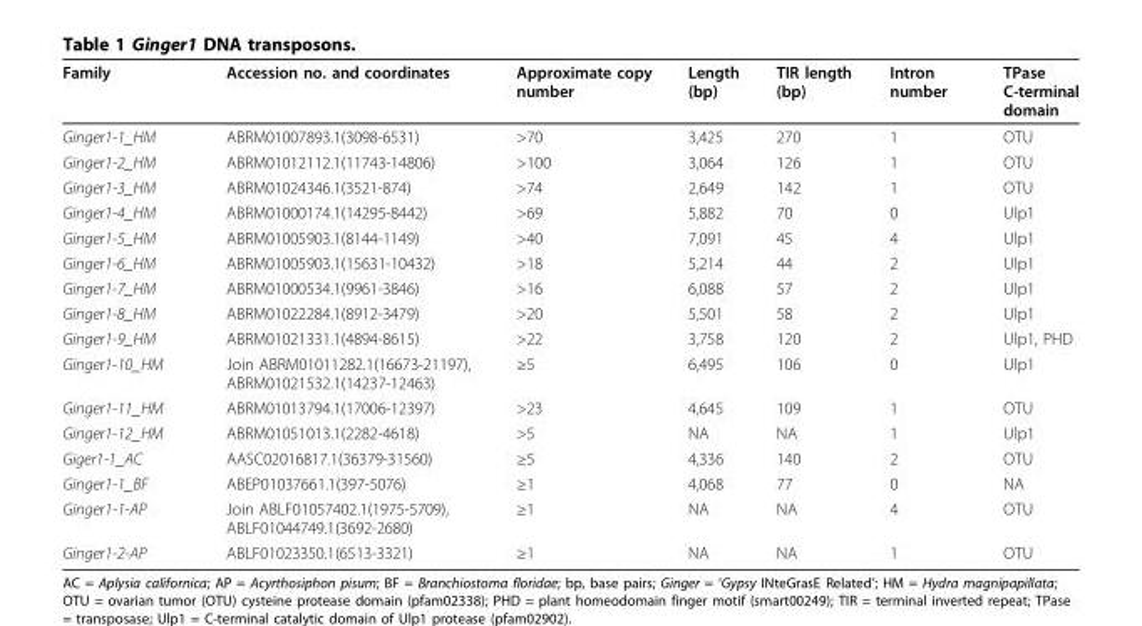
<table><thead><tr><td>Family</td><td>Accession no. and coordinates</td><td>Approximate copy number</td><td>Length (bp)</td><td>TIR length (bp)</td><td>Intron number</td><td>TPase C-terminal domain</td></tr></thead><tbody><tr><td>Ginger1-1_HM</td><td>ABRM01007893.1(3098-6531)</td><td>&gt;70</td><td>3,425</td><td>270</td><td>1</td><td>OTU</td></tr><tr><td>Ginger1-2_HM</td><td>ABRM01012112.1(11743-14806)</td><td>&gt;100</td><td>3,064</td><td>126</td><td>1</td><td>OTU</td></tr><tr><td>Ginger1-3_HM</td><td>ABRM01024346.1(3521-874)</td><td>&gt;74</td><td>2,649</td><td>142</td><td>1</td><td>OTU</td></tr><tr><td>Ginger1-4_HM</td><td>ABRM01000174.1(14295-8442)</td><td>&gt;69</td><td>5,882</td><td>70</td><td>0</td><td>Ulp1</td></tr><tr><td>Ginger1-5_HM</td><td>ABRM01005903.1(8144-1149)</td><td>&gt;40</td><td>7,091</td><td>45</td><td>4</td><td>Ulp1</td></tr><tr><td>Ginger1-6_HM</td><td>ABRM01005903.1(15631-10432)</td><td>&gt;18</td><td>5,214</td><td>44</td><td>2</td><td>Ulp1</td></tr><tr><td>Ginger1-7_HM</td><td>ABRM01000534.1(9961-3846)</td><td>&gt;16</td><td>6,088</td><td>57</td><td>2</td><td>Ulp1</td></tr><tr><td>Ginger1-8_HM</td><td>ABRM01022284.1(8912-3479)</td><td>&gt;20</td><td>5,501</td><td>58</td><td>2</td><td>Ulp1</td></tr><tr><td>Ginger1-9_HM</td><td>ABRM01021331.1(4894-8615)</td><td>&gt;22</td><td>3,758</td><td>120</td><td>2</td><td>Ulp1, PHD</td></tr><tr><td>Ginger1-10_HM</td><td>Join ABRM01011282.1(16673-21197), ABRM01021532.1(14237-12463)</td><td>≥5</td><td>6,495</td><td>106</td><td>0</td><td>Ulp1</td></tr><tr><td>Ginger1-11_HM</td><td>ABRM01013794.1(17006-12397)</td><td>&gt;23</td><td>4,645</td><td>109</td><td>1</td><td>OTU</td></tr><tr><td>Ginger1-12_HM</td><td>ABRM01051013.1(2282-4618)</td><td>&gt;5</td><td>NA</td><td>NA</td><td>1</td><td>Ulp1</td></tr><tr><td>Giger1-1_AC</td><td>AASC02016817.1(36379-31560)</td><td>≥5</td><td>4,336</td><td>140</td><td>2</td><td>OTU</td></tr><tr><td>Ginger1-1_BF</td><td>ABEP01037661.1(397-5076)</td><td>≥1</td><td>4,068</td><td>77</td><td>0</td><td>NA</td></tr><tr><td>Ginger1-1-AP</td><td>Join ABLF01057402.1(1975-5709), ABLF01044749.1(3692-2680)</td><td>≥1</td><td>NA</td><td>NA</td><td>4</td><td>OTU</td></tr><tr><td>Ginger1-2-AP</td><td>ABLF01023350.1(6513-3321)</td><td>≥1</td><td>NA</td><td>NA</td><td>1</td><td>OTU</td></tr></tbody></table>